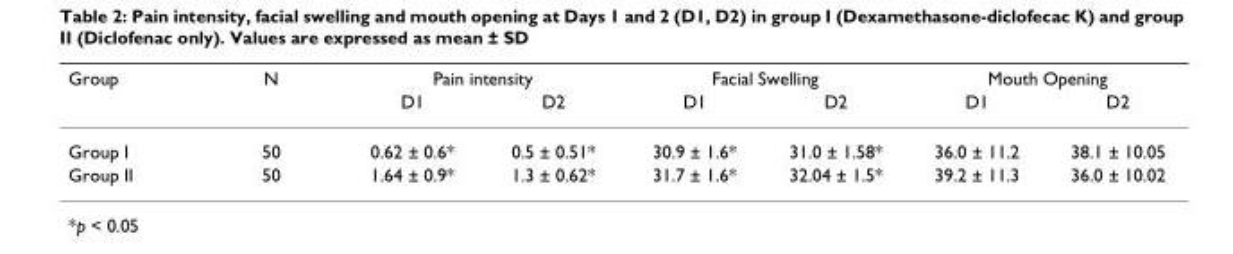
<table><thead><tr><td rowspan="2">Group</td><td rowspan="2">N</td><td colspan="2">Pain intensity</td><td colspan="2">Facial Swelling</td><td colspan="2">Mouth Opening</td></tr><tr><td>D1</td><td>D2</td><td>D1</td><td>D2</td><td>D1</td><td>D2</td></tr></thead><tbody><tr><td>Group I</td><td>50</td><td>0.62 ± 0.6*</td><td>0.5 ± 0.51*</td><td>30.9 ± 1.6*</td><td>31.0 ± 1.58*</td><td>36.0 ± 11.2</td><td>38.1 ± 10.05</td></tr><tr><td>Group II</td><td>50</td><td>1.64 ± 0.9*</td><td>1.3 ± 0.62*</td><td>31.7 ± 1.6*</td><td>32.04 ± 1.5*</td><td>39.2 ± 11.3</td><td>36.0 ± 10.02</td></tr></tbody></table>